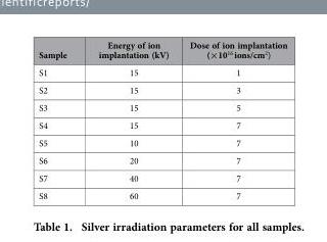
<table><thead><tr><td>Sample</td><td>Energy of ion implantation (kV)</td><td>Dose of ion implantation (×10<sup>16</sup> ions/cm<sup>2</sup>)</td></tr></thead><tbody><tr><td>S1</td><td>15</td><td>1</td></tr><tr><td>S2</td><td>15</td><td>3</td></tr><tr><td>S3</td><td>15</td><td>5</td></tr><tr><td>S4</td><td>15</td><td>7</td></tr><tr><td>S5</td><td>10</td><td>7</td></tr><tr><td>S6</td><td>20</td><td>7</td></tr><tr><td>S7</td><td>40</td><td>7</td></tr><tr><td>S8</td><td>60</td><td>7</td></tr></tbody></table>